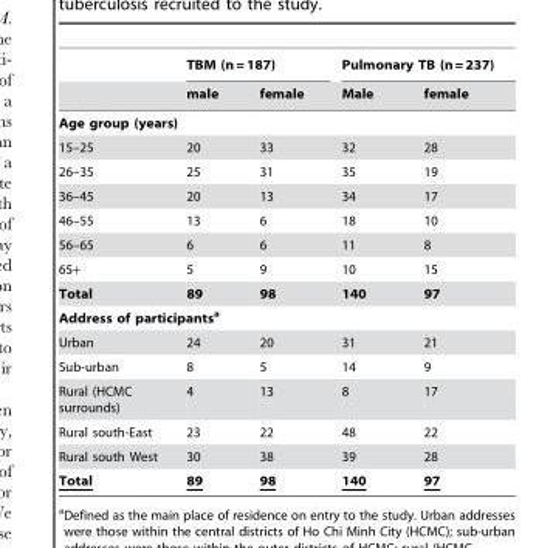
<table><thead><tr><td rowspan="2"></td><td colspan="2">TBM (n = 187)</td><td colspan="2">Pulmonary TB (n = 237)</td></tr><tr><td>male</td><td>female</td><td>Male</td><td>female</td></tr></thead><tbody><tr><td colspan="5">Age group (years)</td></tr><tr><td>15–25</td><td>20</td><td>33</td><td>32</td><td>28</td></tr><tr><td>26–35</td><td>25</td><td>31</td><td>35</td><td>19</td></tr><tr><td>36–45</td><td>20</td><td>13</td><td>34</td><td>17</td></tr><tr><td>46–55</td><td>13</td><td>6</td><td>18</td><td>10</td></tr><tr><td>56–65</td><td>6</td><td>6</td><td>11</td><td>8</td></tr><tr><td>65+</td><td>5</td><td>9</td><td>10</td><td>15</td></tr><tr><td>Total</td><td>89</td><td>98</td><td>140</td><td>97</td></tr><tr><td colspan="5">Address of participantsa</td></tr><tr><td>Urban</td><td>24</td><td>20</td><td>31</td><td>21</td></tr><tr><td>Sub-urban</td><td>8</td><td>5</td><td>14</td><td>9</td></tr><tr><td>Rural (HCMC surrounds)</td><td>4</td><td>13</td><td>8</td><td>17</td></tr><tr><td>Rural south-East</td><td>23</td><td>22</td><td>48</td><td>22</td></tr><tr><td>Rural south West</td><td>30</td><td>38</td><td>39</td><td>28</td></tr><tr><td>Total</td><td>89</td><td>98</td><td>140</td><td>97</td></tr></tbody></table>